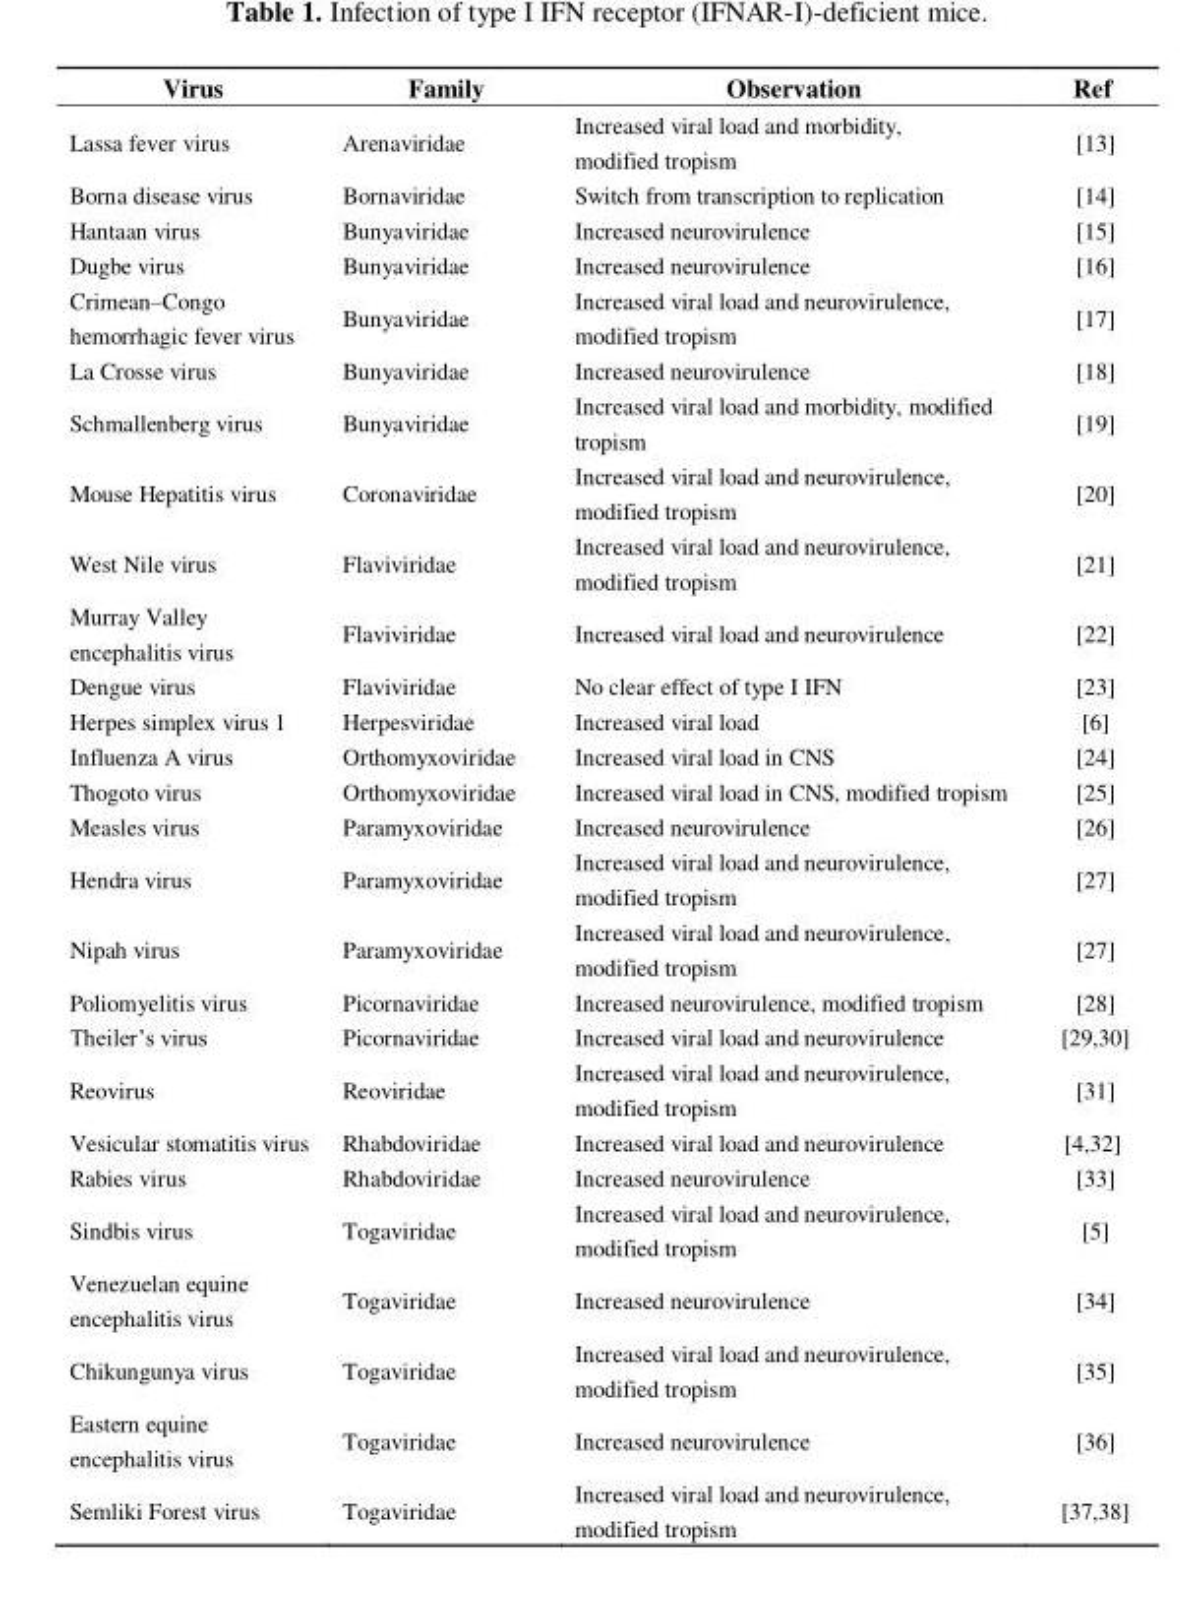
<table><thead><tr><td>Virus</td><td>Family</td><td>Observation</td><td>Ref</td></tr></thead><tbody><tr><td>Lassa fever virus</td><td>Arenaviridae</td><td>Increased viral load and morbidity, modified tropism</td><td>[13]</td></tr><tr><td>Borna disease virus</td><td>Bornaviridae</td><td>Switch from transcription to replication</td><td>[14]</td></tr><tr><td>Hantaan virus</td><td>Bunyaviridae</td><td>Increased neurovirulence</td><td>[15]</td></tr><tr><td>Dugbe virus</td><td>Bunyaviridae</td><td>Increased neurovirulence</td><td>[16]</td></tr><tr><td>Crimean–Congo hemorrhagic fever virus</td><td>Bunyaviridae</td><td>Increased viral load and neurovirulence, modified tropism</td><td>[17]</td></tr><tr><td>La Crosse virus</td><td>Bunyaviridae</td><td>Increased neurovirulence</td><td>[18]</td></tr><tr><td>Schmallenberg virus</td><td>Bunyaviridae</td><td>Increased viral load and morbidity, modified tropism</td><td>[19]</td></tr><tr><td>Mouse Hepatitis virus</td><td>Coronaviridae</td><td>Increased viral load and neurovirulence, modified tropism</td><td>[20]</td></tr><tr><td>West Nile virus</td><td>Flaviviridae</td><td>Increased viral load and neurovirulence, modified tropism</td><td>[21]</td></tr><tr><td>Murray Valley encephalitis virus</td><td>Flaviviridae</td><td>Increased viral load and neurovirulence</td><td>[22]</td></tr><tr><td>Dengue virus</td><td>Flaviviridae</td><td>No clear effect of type I IFN</td><td>[23]</td></tr><tr><td>Herpes simplex virus 1</td><td>Herpesviridae</td><td>Increased viral load</td><td>[6]</td></tr><tr><td>Influenza A virus</td><td>Orthomyxoviridae</td><td>Increased viral load in CNS</td><td>[24]</td></tr><tr><td>Thogoto virus</td><td>Orthomyxoviridae</td><td>Increased viral load in CNS, modified tropism</td><td>[25]</td></tr><tr><td>Measles virus</td><td>Paramyxoviridae</td><td>Increased neurovirulence</td><td>[26]</td></tr><tr><td>Hendra virus</td><td>Paramyxoviridae</td><td>Increased viral load and neurovirulence, modified tropism</td><td>[27]</td></tr><tr><td>Nipah virus</td><td>Paramyxoviridae</td><td>Increased viral load and neurovirulence, modified tropism</td><td>[27]</td></tr><tr><td>Poliomyelitis virus</td><td>Picornaviridae</td><td>Increased neurovirulence, modified tropism</td><td>[28]</td></tr><tr><td>Theiler’s virus</td><td>Picornaviridae</td><td>Increased viral load and neurovirulence</td><td>[29,30]</td></tr><tr><td>Reovirus</td><td>Reoviridae</td><td>Increased viral load and neurovirulence, modified tropism</td><td>[31]</td></tr><tr><td>Vesicular stomatitis virus</td><td>Rhabdoviridae</td><td>Increased viral load and neurovirulence</td><td>[4,32]</td></tr><tr><td>Rabies virus</td><td>Rhabdoviridae</td><td>Increased neurovirulence</td><td>[33]</td></tr><tr><td>Sindbis virus</td><td>Togaviridae</td><td>Increased viral load and neurovirulence, modified tropism</td><td>[5]</td></tr><tr><td>Venezuelan equine encephalitis virus</td><td>Togaviridae</td><td>Increased neurovirulence</td><td>[34]</td></tr><tr><td>Chikungunya virus</td><td>Togaviridae</td><td>Increased viral load and neurovirulence, modified tropism</td><td>[35]</td></tr><tr><td>Eastern equine encephalitis virus</td><td>Togaviridae</td><td>Increased neurovirulence</td><td>[36]</td></tr><tr><td>Semliki Forest virus</td><td>Togaviridae</td><td>Increased viral load and neurovirulence, modified tropism</td><td>[37,38]</td></tr></tbody></table>